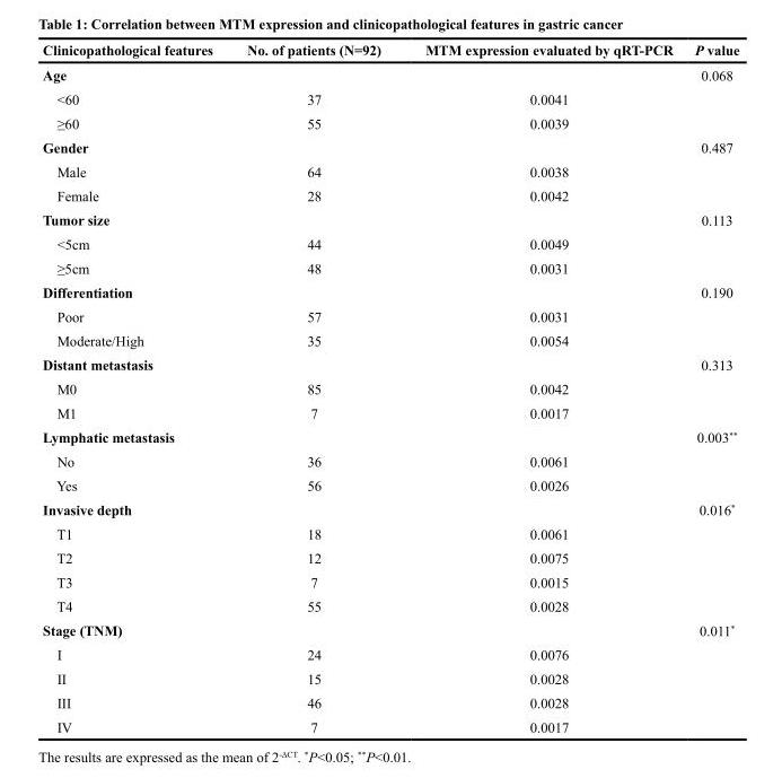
<table><thead><tr><td>Clinicopathological features</td><td>No. of patients (N=92)</td><td>MTM expression evaluated by qRT-PCR</td><td>P value</td></tr></thead><tbody><tr><td>Age</td><td></td><td></td><td>0.068</td></tr><tr><td>&lt;60</td><td>37</td><td>0.0041</td><td></td></tr><tr><td>≥60</td><td>55</td><td>0.0039</td><td></td></tr><tr><td>Gender</td><td></td><td></td><td>0.487</td></tr><tr><td>Male</td><td>64</td><td>0.0038</td><td></td></tr><tr><td>Female</td><td>28</td><td>0.0042</td><td></td></tr><tr><td>Tumor size</td><td></td><td></td><td>0.113</td></tr><tr><td>&lt;5cm</td><td>44</td><td>0.0049</td><td></td></tr><tr><td>≥5cm</td><td>48</td><td>0.0031</td><td></td></tr><tr><td>Differentiation</td><td></td><td></td><td>0.190</td></tr><tr><td>Poor</td><td>57</td><td>0.0031</td><td></td></tr><tr><td>Moderate/High</td><td>35</td><td>0.0054</td><td></td></tr><tr><td>Distant metastasis</td><td></td><td></td><td>0.313</td></tr><tr><td>M0</td><td>85</td><td>0.0042</td><td></td></tr><tr><td>M1</td><td>7</td><td>0.0017</td><td></td></tr><tr><td>Lymphatic metastasis</td><td></td><td></td><td>0.003**</td></tr><tr><td>No</td><td>36</td><td>0.0061</td><td></td></tr><tr><td>Yes</td><td>56</td><td>0.0026</td><td></td></tr><tr><td>Invasive depth</td><td></td><td></td><td>0.016*</td></tr><tr><td>T1</td><td>18</td><td>0.0061</td><td></td></tr><tr><td>T2</td><td>12</td><td>0.0075</td><td></td></tr><tr><td>T3</td><td>7</td><td>0.0015</td><td></td></tr><tr><td>T4</td><td>55</td><td>0.0028</td><td></td></tr><tr><td>Stage (TNM)</td><td></td><td></td><td>0.011*</td></tr><tr><td>I</td><td>24</td><td>0.0076</td><td></td></tr><tr><td>II</td><td>15</td><td>0.0028</td><td></td></tr><tr><td>III</td><td>46</td><td>0.0028</td><td></td></tr><tr><td>IV</td><td>7</td><td>0.0017</td><td></td></tr></tbody></table>